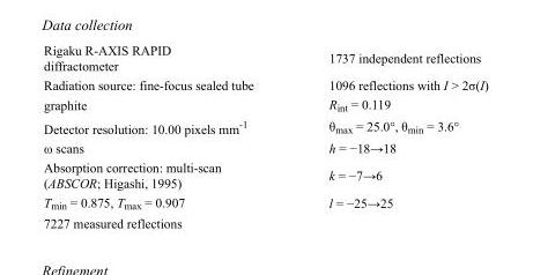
<table><tbody><tr><td>Rigaku R-AXIS RAPID diffractometer</td><td>1737 independent reflections</td></tr><tr><td>Radiation source: fine-focus sealed tube</td><td>1096 reflections with I &gt; 2σ(I)</td></tr><tr><td>graphite</td><td>R<sub>int</sub> = 0.119</td></tr><tr><td>Detector resolution: 10.00 pixels mm<sup>-1</sup></td><td>θ<sub>max</sub> = 25.0°, θ<sub>min</sub> = 3.6°</td></tr><tr><td>ω scans</td><td>h = −18→18</td></tr><tr><td>Absorption correction: multi-scan (ABSCOR; Higashi, 1995)</td><td>k = −7→6</td></tr><tr><td>T<sub>min</sub> = 0.875, T<sub>max</sub> = 0.907</td><td>l = −25→25</td></tr><tr><td>7227 measured reflections</td><td></td></tr></tbody></table>